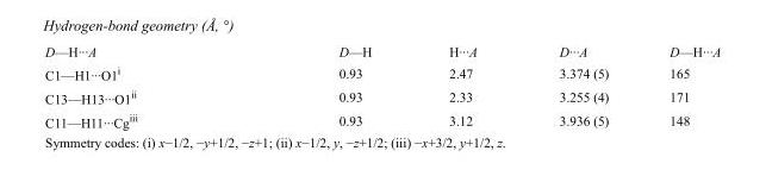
<table><tbody><tr><td>D—H···A</td><td>D—H</td><td>H···A</td><td>D···A</td><td>D—H···A</td></tr><tr><td>C1—H1···O1<sup>i</sup></td><td>0.93</td><td>2.47</td><td>3.374 (5)</td><td>165</td></tr><tr><td>C13—H13···O1<sup>ii</sup></td><td>0.93</td><td>2.33</td><td>3.255 (4)</td><td>171</td></tr><tr><td>C11—H11···Cg<sup>iii</sup></td><td>0.93</td><td>3.12</td><td>3.936 (5)</td><td>148</td></tr></tbody></table>